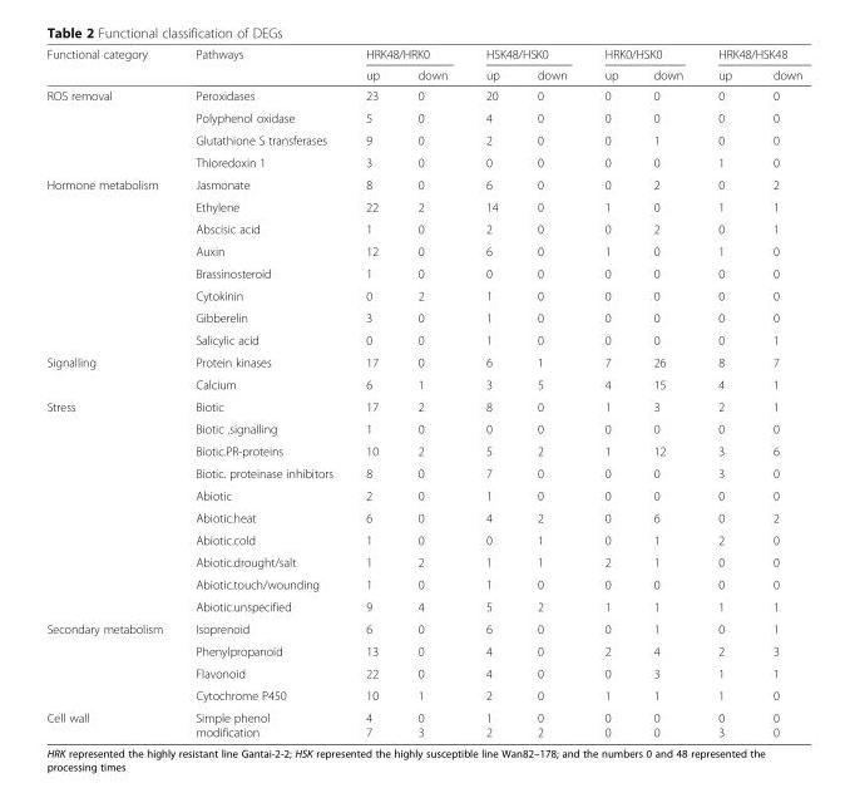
<table><thead><tr><td rowspan="2">Functional category</td><td rowspan="2">Pathways</td><td colspan="2">HRK48/HRK0</td><td colspan="2">HSK48/HSK0</td><td colspan="2">HRK0/HSK0</td><td colspan="2">HRK48/HSK48</td></tr><tr><td>up</td><td>down</td><td>up</td><td>down</td><td>up</td><td>down</td><td>up</td><td>down</td></tr></thead><tbody><tr><td rowspan="4">ROS removal</td><td>Peroxidases</td><td>23</td><td>0</td><td>20</td><td>0</td><td>0</td><td>0</td><td>0</td><td>0</td></tr><tr><td>Polyphenol oxidase</td><td>5</td><td>0</td><td>4</td><td>0</td><td>0</td><td>0</td><td>0</td><td>0</td></tr><tr><td>Glutathione S transferases</td><td>9</td><td>0</td><td>2</td><td>0</td><td>0</td><td>1</td><td>0</td><td>0</td></tr><tr><td>Thioredoxin 1</td><td>3</td><td>0</td><td>0</td><td>0</td><td>0</td><td>0</td><td>1</td><td>0</td></tr><tr><td rowspan="8">Hormone metabolism</td><td>Jasmonate</td><td>8</td><td>0</td><td>6</td><td>0</td><td>0</td><td>2</td><td>0</td><td>2</td></tr><tr><td>Ethylene</td><td>22</td><td>2</td><td>14</td><td>0</td><td>1</td><td>0</td><td>1</td><td>1</td></tr><tr><td>Abscisic acid</td><td>1</td><td>0</td><td>2</td><td>0</td><td>0</td><td>2</td><td>0</td><td>1</td></tr><tr><td>Auxin</td><td>12</td><td>0</td><td>6</td><td>0</td><td>1</td><td>0</td><td>1</td><td>0</td></tr><tr><td>Brassinosteroid</td><td>1</td><td>0</td><td>0</td><td>0</td><td>0</td><td>0</td><td>0</td><td>0</td></tr><tr><td>Cytokinin</td><td>0</td><td>2</td><td>1</td><td>0</td><td>0</td><td>0</td><td>0</td><td>0</td></tr><tr><td>Gibberelin</td><td>3</td><td>0</td><td>1</td><td>0</td><td>0</td><td>0</td><td>0</td><td>0</td></tr><tr><td>Salicylic acid</td><td>0</td><td>0</td><td>1</td><td>0</td><td>0</td><td>0</td><td>0</td><td>1</td></tr><tr><td rowspan="2">Signalling</td><td>Protein kinases</td><td>17</td><td>0</td><td>6</td><td>1</td><td>7</td><td>26</td><td>8</td><td>7</td></tr><tr><td>Calcium</td><td>6</td><td>1</td><td>3</td><td>5</td><td>4</td><td>15</td><td>4</td><td>1</td></tr><tr><td rowspan="10">Stress</td><td>Biotic</td><td>17</td><td>2</td><td>8</td><td>0</td><td>1</td><td>3</td><td>2</td><td>1</td></tr><tr><td>Biotic .signalling</td><td>1</td><td>0</td><td>0</td><td>0</td><td>0</td><td>0</td><td>0</td><td>0</td></tr><tr><td>Biotic.PR-proteins</td><td>10</td><td>2</td><td>5</td><td>2</td><td>1</td><td>12</td><td>3</td><td>6</td></tr><tr><td>Biotic. proteinase inhibitors</td><td>8</td><td>0</td><td>7</td><td>0</td><td>0</td><td>0</td><td>3</td><td>0</td></tr><tr><td>Abiotic</td><td>2</td><td>0</td><td>1</td><td>0</td><td>0</td><td>0</td><td>0</td><td>0</td></tr><tr><td>Abiotic.heat</td><td>6</td><td>0</td><td>4</td><td>2</td><td>0</td><td>6</td><td>0</td><td>2</td></tr><tr><td>Abiotic.cold</td><td>1</td><td>0</td><td>0</td><td>1</td><td>0</td><td>1</td><td>2</td><td>0</td></tr><tr><td>Abiotic.drought/salt</td><td>1</td><td>2</td><td>1</td><td>1</td><td>2</td><td>1</td><td>0</td><td>0</td></tr><tr><td>Abiotic.touch/wounding</td><td>1</td><td>0</td><td>1</td><td>0</td><td>0</td><td>0</td><td>0</td><td>0</td></tr><tr><td>Abiotic.unspecified</td><td>9</td><td>4</td><td>5</td><td>2</td><td>1</td><td>1</td><td>1</td><td>1</td></tr><tr><td rowspan="4">Secondary metabolism</td><td>Isoprenoid</td><td>6</td><td>0</td><td>6</td><td>0</td><td>0</td><td>1</td><td>0</td><td>1</td></tr><tr><td>Phenylpropanoid</td><td>13</td><td>0</td><td>4</td><td>0</td><td>2</td><td>4</td><td>2</td><td>3</td></tr><tr><td>Flavonoid</td><td>22</td><td>0</td><td>4</td><td>0</td><td>0</td><td>3</td><td>1</td><td>1</td></tr><tr><td>Cytochrome P450</td><td>10</td><td>1</td><td>2</td><td>0</td><td>1</td><td>1</td><td>1</td><td>0</td></tr><tr><td>Cell wall</td><td>Simple phenol modification</td><td>4 7</td><td>0 3</td><td>1 2</td><td>0 2</td><td>0 0</td><td>0 0</td><td>0 3</td><td>0 0</td></tr></tbody></table>